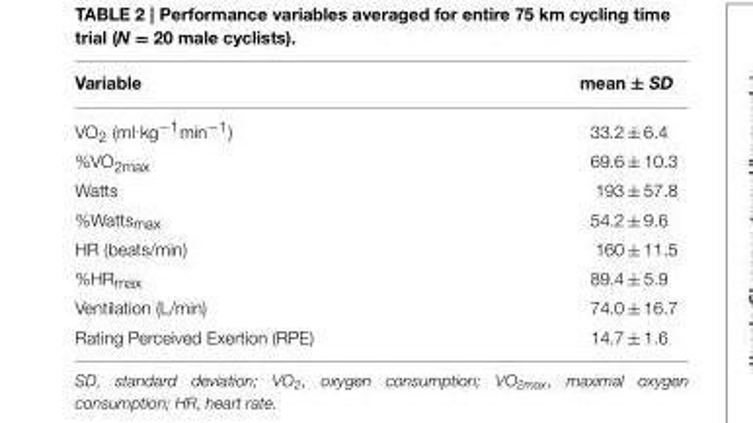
<table><thead><tr><td>Variable</td><td>mean ± SD</td></tr></thead><tbody><tr><td>VO<sub>2</sub> (ml.kg<sup>−1</sup>min<sup>−1</sup>)</td><td>33.2 ± 6.4</td></tr><tr><td>%VO<sub>2max</sub></td><td>69.6 ± 10.3</td></tr><tr><td>Watts</td><td>193 ± 57.8</td></tr><tr><td>%Watts<sub>max</sub></td><td>54.2 ± 9.6</td></tr><tr><td>HR (beats/min)</td><td>160 ± 11.5</td></tr><tr><td>%HR<sub>max</sub></td><td>89.4 ± 5.9</td></tr><tr><td>Ventilation (L/min)</td><td>74.0 ± 16.7</td></tr><tr><td>Rating Perceived Exertion (RPE)</td><td>14.7 ± 1.6</td></tr></tbody></table>